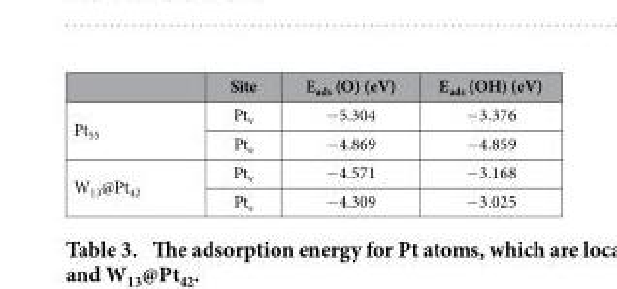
<table><thead><tr><td></td><td>Site</td><td>E<sub>ads</sub> (O) (eV)</td><td>E<sub>ads</sub> (OH) (eV)</td></tr></thead><tbody><tr><td rowspan="2">Pt<sub>55</sub></td><td>Pt<sub>v</sub></td><td>− 5.304</td><td>− 3.376</td></tr><tr><td>Pt<sub>e</sub></td><td>− 4.869</td><td>− 4.859</td></tr><tr><td rowspan="2">W<sub>13</sub>@Pt<sub>42</sub></td><td>Pt<sub>v</sub></td><td>− 4.571</td><td>− 3.168</td></tr><tr><td>Pt<sub>e</sub></td><td>− 4.309</td><td>− 3.025</td></tr></tbody></table>